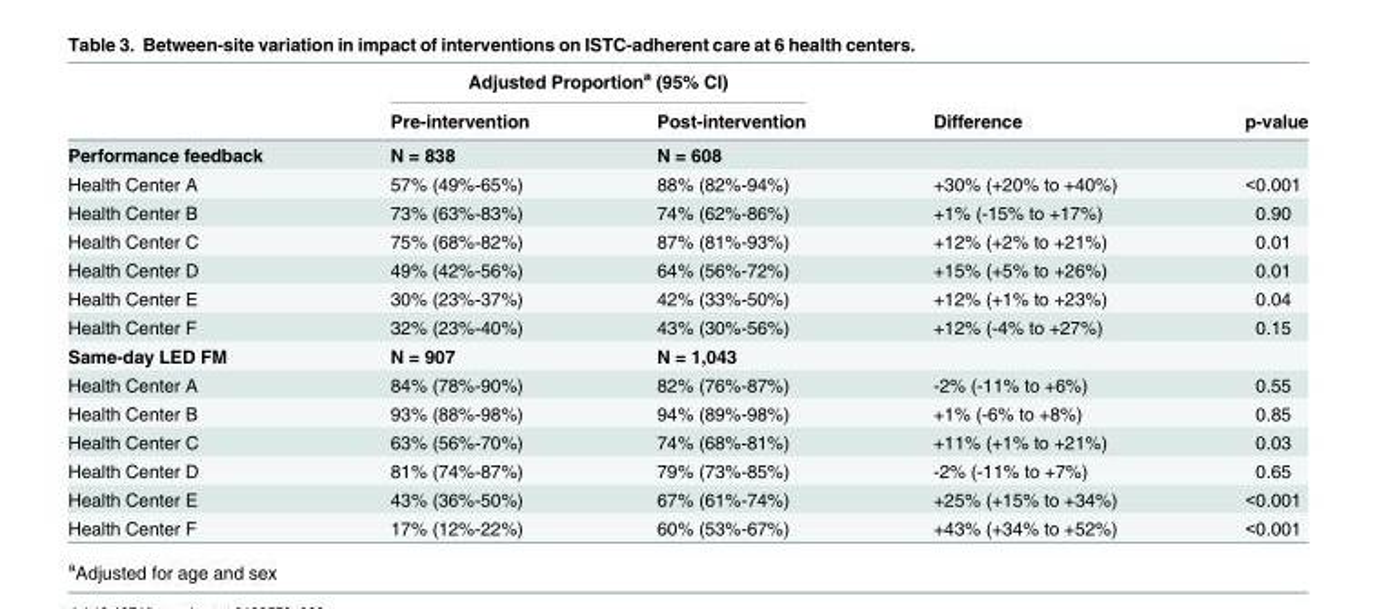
<table><thead><tr><td rowspan="2"></td><td colspan="2">Adjusted Proportion<sup>a</sup> (95% CI)</td><td rowspan="2">Difference</td><td rowspan="2">p-value</td></tr><tr><td>Pre-intervention</td><td>Post-intervention</td></tr></thead><tbody><tr><td>Performance feedback</td><td>N = 838</td><td>N = 608</td><td></td><td></td></tr><tr><td>Health Center A</td><td>57% (49%-65%)</td><td>88% (82%-94%)</td><td>+30% (+20% to +40%)</td><td>&lt;0.001</td></tr><tr><td>Health Center B</td><td>73% (63%-83%)</td><td>74% (62%-86%)</td><td>+1% (-15% to +17%)</td><td>0.90</td></tr><tr><td>Health Center C</td><td>75% (68%-82%)</td><td>87% (81%-93%)</td><td>+12% (+2% to +21%)</td><td>0.01</td></tr><tr><td>Health Center D</td><td>49% (42%-56%)</td><td>64% (56%-72%)</td><td>+15% (+5% to +26%)</td><td>0.01</td></tr><tr><td>Health Center E</td><td>30% (23%-37%)</td><td>42% (33%-50%)</td><td>+12% (+1% to +23%)</td><td>0.04</td></tr><tr><td>Health Center F</td><td>32% (23%-40%)</td><td>43% (30%-56%)</td><td>+12% (-4% to +27%)</td><td>0.15</td></tr><tr><td>Same-day LED FM</td><td>N = 907</td><td>N = 1,043</td><td></td><td></td></tr><tr><td>Health Center A</td><td>84% (78%-90%)</td><td>82% (76%-87%)</td><td>-2% (-11% to +6%)</td><td>0.55</td></tr><tr><td>Health Center B</td><td>93% (88%-98%)</td><td>94% (89%-98%)</td><td>+1% (-6% to +8%)</td><td>0.85</td></tr><tr><td>Health Center C</td><td>63% (56%-70%)</td><td>74% (68%-81%)</td><td>+11% (+1% to +21%)</td><td>0.03</td></tr><tr><td>Health Center D</td><td>81% (74%-87%)</td><td>79% (73%-85%)</td><td>-2% (-11% to +7%)</td><td>0.65</td></tr><tr><td>Health Center E</td><td>43% (36%-50%)</td><td>67% (61%-74%)</td><td>+25% (+15% to +34%)</td><td>&lt;0.001</td></tr><tr><td>Health Center F</td><td>17% (12%-22%)</td><td>60% (53%-67%)</td><td>+43% (+34% to +52%)</td><td>&lt;0.001</td></tr></tbody></table>